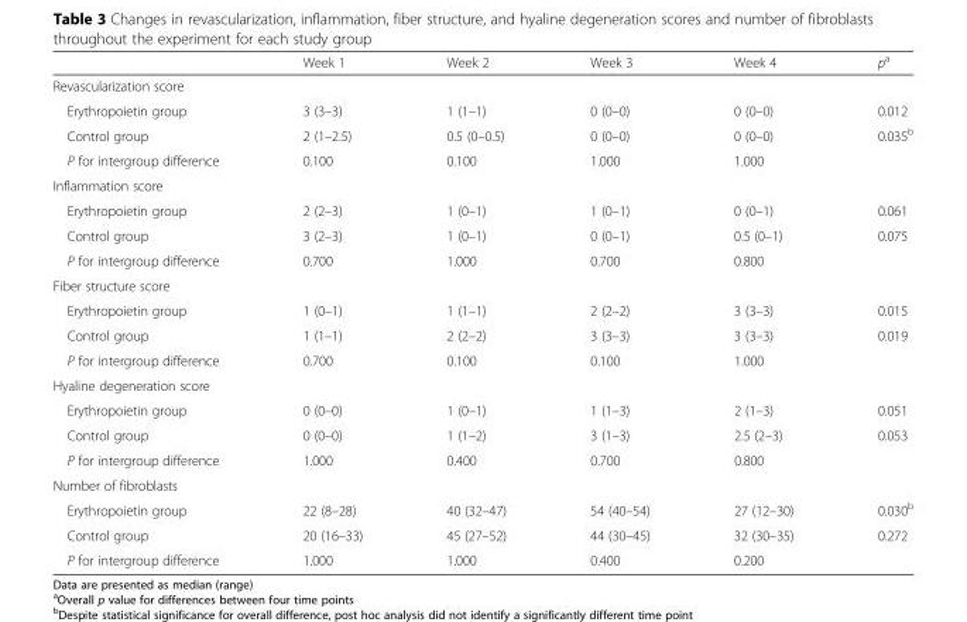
<table><thead><tr><td></td><td>Week 1</td><td>Week 2</td><td>Week 3</td><td>Week 4</td><td>p<sup>a</sup></td></tr></thead><tbody><tr><td colspan="6">Revascularization score</td></tr><tr><td>Erythropoietin group</td><td>3 (3–3)</td><td>1 (1–1)</td><td>0 (0–0)</td><td>0 (0–0)</td><td>0.012</td></tr><tr><td>Control group</td><td>2 (1–2.5)</td><td>0.5 (0–0.5)</td><td>0 (0–0)</td><td>0 (0–0)</td><td>0.035<sup>b</sup></td></tr><tr><td>P for intergroup difference</td><td>0.100</td><td>0.100</td><td>1.000</td><td>1.000</td><td></td></tr><tr><td colspan="6">Inflammation score</td></tr><tr><td>Erythropoietin group</td><td>2 (2–3)</td><td>1 (0–1)</td><td>1 (0–1)</td><td>0 (0–1)</td><td>0.061</td></tr><tr><td>Control group</td><td>3 (2–3)</td><td>1 (0–1)</td><td>0 (0–1)</td><td>0.5 (0–1)</td><td>0.075</td></tr><tr><td>P for intergroup difference</td><td>0.700</td><td>1.000</td><td>0.700</td><td>0.800</td><td></td></tr><tr><td colspan="6">Fiber structure score</td></tr><tr><td>Erythropoietin group</td><td>1 (0–1)</td><td>1 (1–1)</td><td>2 (2–2)</td><td>3 (3–3)</td><td>0.015</td></tr><tr><td>Control group</td><td>1 (1–1)</td><td>2 (2–2)</td><td>3 (3–3)</td><td>3 (3–3)</td><td>0.019</td></tr><tr><td>P for intergroup difference</td><td>0.700</td><td>0.100</td><td>0.100</td><td>1.000</td><td></td></tr><tr><td colspan="6">Hyaline degeneration score</td></tr><tr><td>Erythropoietin group</td><td>0 (0–0)</td><td>1 (0–1)</td><td>1 (1–3)</td><td>2 (1–3)</td><td>0.051</td></tr><tr><td>Control group</td><td>0 (0–0)</td><td>1 (1–2)</td><td>3 (1–3)</td><td>2.5 (2–3)</td><td>0.053</td></tr><tr><td>P for intergroup difference</td><td>1.000</td><td>0.400</td><td>0.700</td><td>0.800</td><td></td></tr><tr><td colspan="6">Number of fibroblasts</td></tr><tr><td>Erythropoietin group</td><td>22 (8–28)</td><td>40 (32–47)</td><td>54 (40–54)</td><td>27 (12–30)</td><td>0.030<sup>b</sup></td></tr><tr><td>Control group</td><td>20 (16–33)</td><td>45 (27–52)</td><td>44 (30–45)</td><td>32 (30–35)</td><td>0.272</td></tr><tr><td>P for intergroup difference</td><td>1.000</td><td>1.000</td><td>0.400</td><td>0.200</td><td></td></tr></tbody></table>